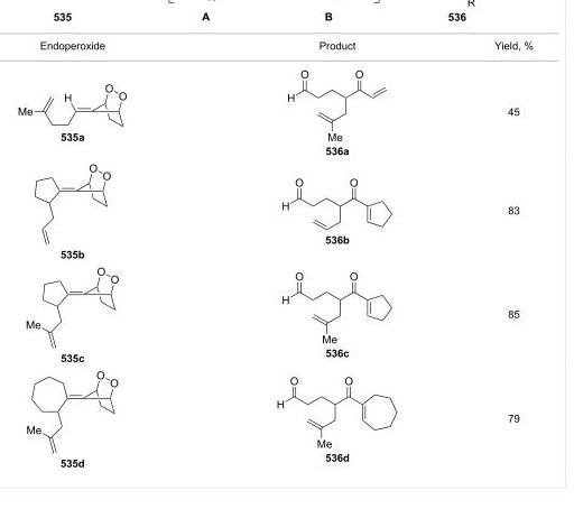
<table><tbody><tr><td>Endoperoxide</td><td>Product</td><td>Yield, %</td></tr><tr><td>535a</td><td>536a</td><td>45</td></tr><tr><td>535b</td><td>536b</td><td>83</td></tr><tr><td>535c</td><td>536c</td><td>85</td></tr><tr><td>535d</td><td>536d</td><td>79</td></tr></tbody></table>